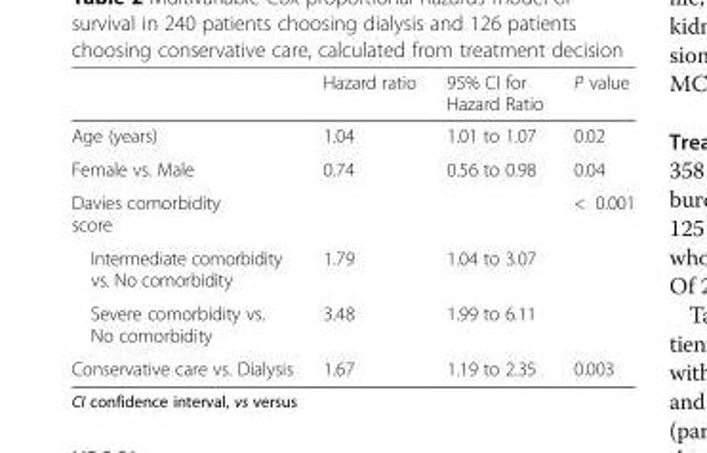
<table><thead><tr><td></td><td>Hazard ratio</td><td>95% CI for Hazard Ratio</td><td>P value</td></tr></thead><tbody><tr><td>Age (years)</td><td>1.04</td><td>1.01 to 1.07</td><td>0.02</td></tr><tr><td>Female vs. Male</td><td>0.74</td><td>0.56 to 0.98</td><td>0.04</td></tr><tr><td colspan="3">Davies comorbidity score</td><td>&lt; 0.001</td></tr><tr><td>Intermediate comorbidity vs. No comorbidity</td><td>1.79</td><td>1.04 to 3.07</td><td></td></tr><tr><td>Severe comorbidity vs. No comorbidity</td><td>3.48</td><td>1.99 to 6.11</td><td></td></tr><tr><td>Conservative care vs. Dialysis</td><td>1.67</td><td>1.19 to 2.35</td><td>0.003</td></tr></tbody></table>